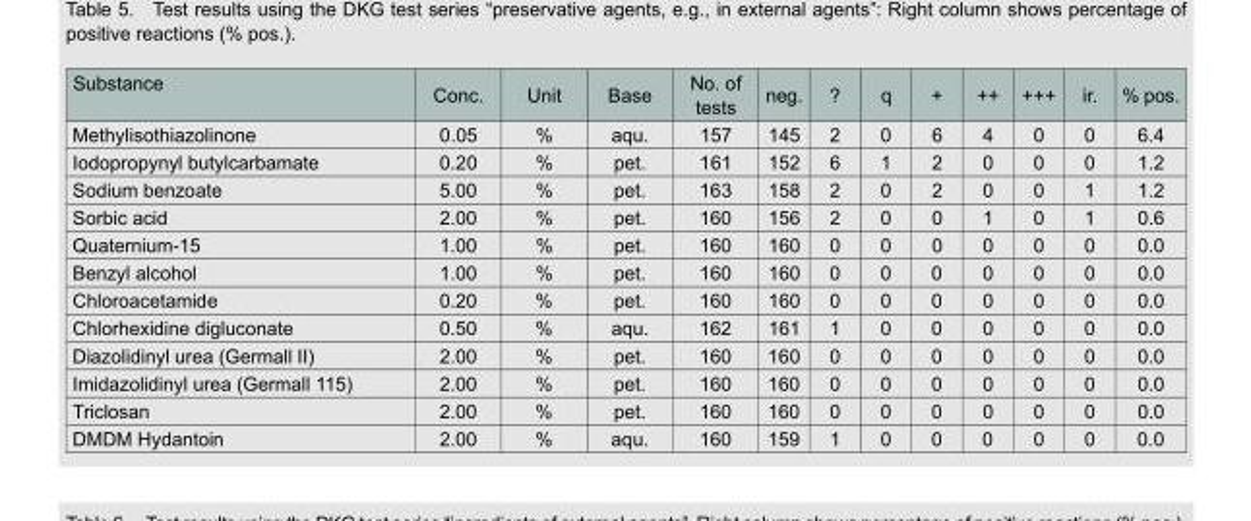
<table><thead><tr><td>Substance</td><td>Conc.</td><td>Unit</td><td>Base</td><td>No. of tests</td><td>neg.</td><td>?</td><td>q</td><td>+</td><td>++</td><td>+++</td><td>ir.</td><td>% pos.</td></tr></thead><tbody><tr><td>Methylisothiazolinone</td><td>0.05</td><td>%</td><td>aqu.</td><td>157</td><td>145</td><td>2</td><td>0</td><td>6</td><td>4</td><td>0</td><td>0</td><td>6.4</td></tr><tr><td>Iodopropynyl butylcarbamate</td><td>0.20</td><td>%</td><td>pet.</td><td>161</td><td>152</td><td>6</td><td>1</td><td>2</td><td>0</td><td>0</td><td>0</td><td>1.2</td></tr><tr><td>Sodium benzoate</td><td>5.00</td><td>%</td><td>pet.</td><td>163</td><td>158</td><td>2</td><td>0</td><td>2</td><td>0</td><td>0</td><td>1</td><td>1.2</td></tr><tr><td>Sorbic acid</td><td>2.00</td><td>%</td><td>pet.</td><td>160</td><td>156</td><td>2</td><td>0</td><td>0</td><td>1</td><td>0</td><td>1</td><td>0.6</td></tr><tr><td>Quaternium-15</td><td>1.00</td><td>%</td><td>pet.</td><td>160</td><td>160</td><td>0</td><td>0</td><td>0</td><td>0</td><td>0</td><td>0</td><td>0.0</td></tr><tr><td>Benzyl alcohol</td><td>1.00</td><td>%</td><td>pet.</td><td>160</td><td>160</td><td>0</td><td>0</td><td>0</td><td>0</td><td>0</td><td>0</td><td>0.0</td></tr><tr><td>Chloroacetamide</td><td>0.20</td><td>%</td><td>pet.</td><td>160</td><td>160</td><td>0</td><td>0</td><td>0</td><td>0</td><td>0</td><td>0</td><td>0.0</td></tr><tr><td>Chlorhexidine digluconate</td><td>0.50</td><td>%</td><td>aqu.</td><td>162</td><td>161</td><td>1</td><td>0</td><td>0</td><td>0</td><td>0</td><td>0</td><td>0.0</td></tr><tr><td>Diazolidinyl urea (Germall II)</td><td>2.00</td><td>%</td><td>pet.</td><td>160</td><td>160</td><td>0</td><td>0</td><td>0</td><td>0</td><td>0</td><td>0</td><td>0.0</td></tr><tr><td>Imidazolidinyl urea (Germall 115)</td><td>2.00</td><td>%</td><td>pet.</td><td>160</td><td>160</td><td>0</td><td>0</td><td>0</td><td>0</td><td>0</td><td>0</td><td>0.0</td></tr><tr><td>Triclosan</td><td>2.00</td><td>%</td><td>pet.</td><td>160</td><td>160</td><td>0</td><td>0</td><td>0</td><td>0</td><td>0</td><td>0</td><td>0.0</td></tr><tr><td>DMDM Hydantoin</td><td>2.00</td><td>%</td><td>aqu.</td><td>160</td><td>159</td><td>1</td><td>0</td><td>0</td><td>0</td><td>0</td><td>0</td><td>0.0</td></tr></tbody></table>